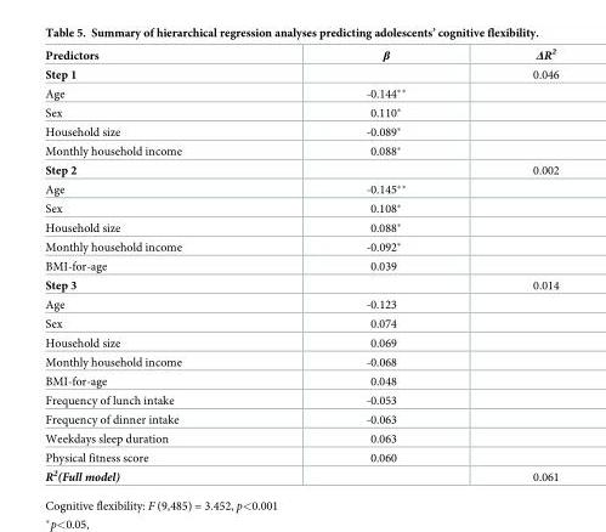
<table><thead><tr><td>Predictors</td><td>β</td><td>ΔR<sup>2</sup></td></tr></thead><tbody><tr><td>Step 1</td><td></td><td>0.046</td></tr><tr><td>Age</td><td>-0.144**</td><td></td></tr><tr><td>Sex</td><td>0.110*</td><td></td></tr><tr><td>Household size</td><td>-0.089*</td><td></td></tr><tr><td>Monthly household income</td><td>0.088*</td><td></td></tr><tr><td>Step 2</td><td></td><td>0.002</td></tr><tr><td>Age</td><td>-0.145**</td><td></td></tr><tr><td>Sex</td><td>0.108*</td><td></td></tr><tr><td>Household size</td><td>0.088*</td><td></td></tr><tr><td>Monthly household income</td><td>-0.092*</td><td></td></tr><tr><td>BMI-for-age</td><td>0.039</td><td></td></tr><tr><td>Step 3</td><td></td><td>0.014</td></tr><tr><td>Age</td><td>-0.123</td><td></td></tr><tr><td>Sex</td><td>0.074</td><td></td></tr><tr><td>Household size</td><td>0.069</td><td></td></tr><tr><td>Monthly household income</td><td>-0.068</td><td></td></tr><tr><td>BMI-for-age</td><td>0.048</td><td></td></tr><tr><td>Frequency of lunch intake</td><td>-0.053</td><td></td></tr><tr><td>Frequency of dinner intake</td><td>-0.063</td><td></td></tr><tr><td>Weekdays sleep duration</td><td>0.063</td><td></td></tr><tr><td>Physical fitness score</td><td>0.060</td><td></td></tr><tr><td>R<sup>2</sup>(Full model)</td><td></td><td>0.061</td></tr></tbody></table>